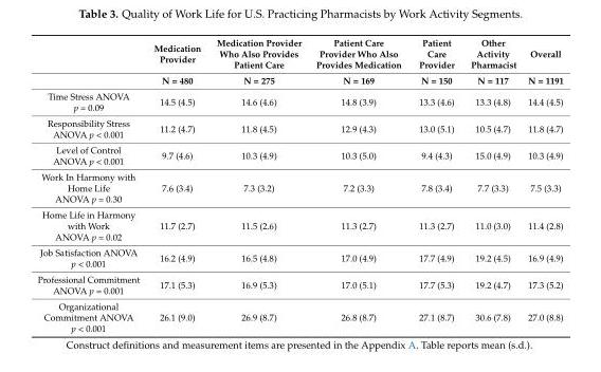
<table><thead><tr><td rowspan="2"></td><td rowspan="2">Medication Provider N = 480</td><td rowspan="2">Medication Provider Who Also Provides Patient Care N = 275</td><td rowspan="2">Patient Care Provider Who Also Provides Medication N = 169</td><td rowspan="2">Patient Care Provider N = 150</td><td rowspan="2">Other Activity Pharmacist N = 117</td><td rowspan="2">Overall N = 1191</td></tr><tr></tr></thead><tbody><tr><td>Time Stress ANOVA p = 0.09</td><td>14.5 (4.5)</td><td>14.6 (4.6)</td><td>14.8 (3.9)</td><td>13.3 (4.6)</td><td>13.3 (4.8)</td><td>14.4 (4.5)</td></tr><tr><td>Responsibility Stress ANOVA p &lt; 0.001</td><td>11.2 (4.7)</td><td>11.8 (4.5)</td><td>12.9 (4.3)</td><td>13.0 (5.1)</td><td>10.5 (4.7)</td><td>11.8 (4.7)</td></tr><tr><td>Level of Control ANOVA p &lt; 0.001</td><td>9.7 (4.6)</td><td>10.3 (4.9)</td><td>10.3 (5.0)</td><td>9.4 (4.3)</td><td>15.0 (4.9)</td><td>10.3 (4.9)</td></tr><tr><td>Work In Harmony with Home Life ANOVA p = 0.30</td><td>7.6 (3.4)</td><td>7.3 (3.2)</td><td>7.2 (3.3)</td><td>7.8 (3.4)</td><td>7.7 (3.3)</td><td>7.5 (3.3)</td></tr><tr><td>Home Life in Harmony with Work ANOVA p = 0.02</td><td>11.7 (2.7)</td><td>11.5 (2.6)</td><td>11.3 (2.7)</td><td>11.3 (2.7)</td><td>11.0 (3.0)</td><td>11.4 (2.8)</td></tr><tr><td>Job Satisfaction ANOVA p &lt; 0.001</td><td>16.2 (4.9)</td><td>16.5 (4.8)</td><td>17.0 (4.9)</td><td>17.7 (4.9)</td><td>19.2 (4.5)</td><td>16.9 (4.9)</td></tr><tr><td>Professional Commitment ANOVA p = 0.001</td><td>17.1 (5.3)</td><td>16.9 (5.3)</td><td>17.0 (5.1)</td><td>17.7 (5.3)</td><td>19.2 (4.7)</td><td>17.3 (5.2)</td></tr><tr><td>Organizational Commitment ANOVA p &lt; 0.001</td><td>26.1 (9.0)</td><td>26.9 (8.7)</td><td>26.8 (8.7)</td><td>27.1 (8.7)</td><td>30.6 (7.8)</td><td>27.0 (8.8)</td></tr></tbody></table>